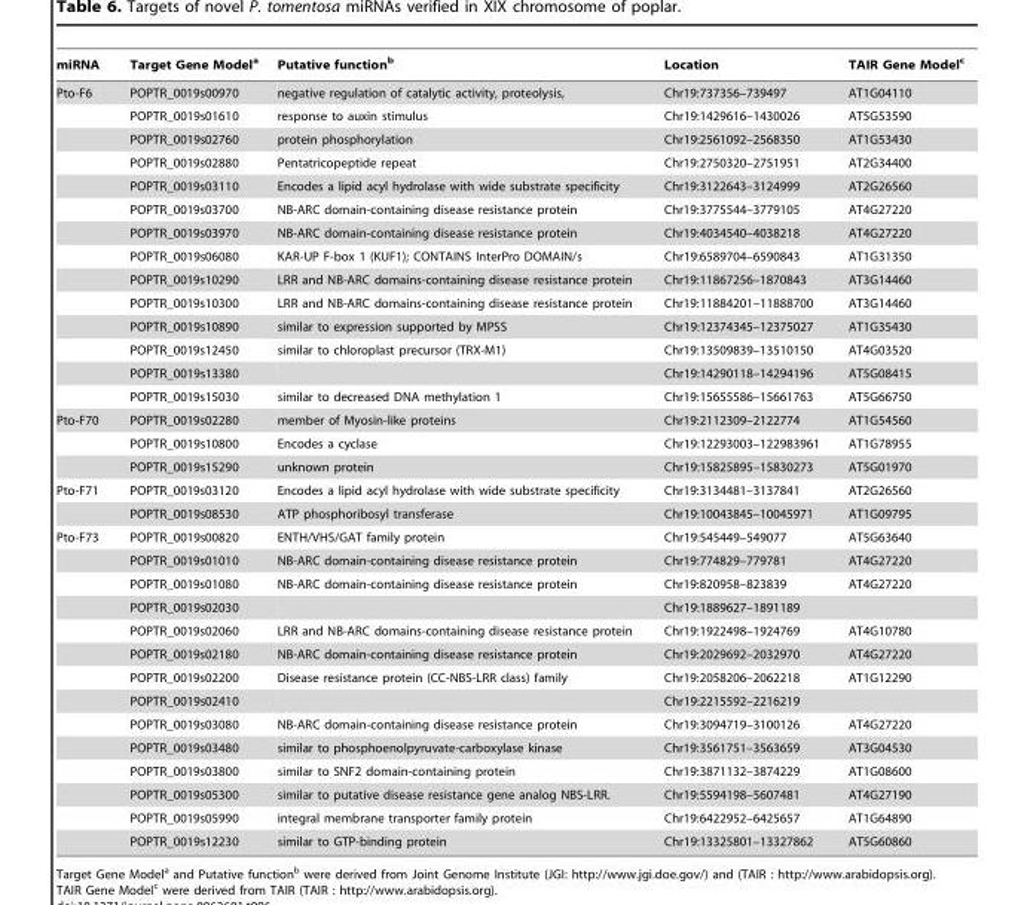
<table><thead><tr><td>miRNA</td><td>Target Gene Model<sup>a</sup></td><td>Putative function<sup>b</sup></td><td>Location</td><td>TAIR Gene Model<sup>c</sup></td></tr></thead><tbody><tr><td rowspan="14">Pto-F6</td><td>POPTR_0019s00970</td><td>negative regulation of catalytic activity, proteolysis,</td><td>Chr19:737356–739497</td><td>AT1G04110</td></tr><tr><td>POPTR_0019s01610</td><td>response to auxin stimulus</td><td>Chr19:1429616–1430026</td><td>AT5G53590</td></tr><tr><td>POPTR_0019s02760</td><td>protein phosphorylation</td><td>Chr19:2561092–2568350</td><td>AT1G53430</td></tr><tr><td>POPTR_0019s02880</td><td>Pentatricopeptide repeat</td><td>Chr19:2750320–2751951</td><td>AT2G34400</td></tr><tr><td>POPTR_0019s03110</td><td>Encodes a lipid acyl hydrolase with wide substrate specificity</td><td>Chr19:3122643–3124999</td><td>AT2G26560</td></tr><tr><td>POPTR_0019s03700</td><td>NB-ARC domain-containing disease resistance protein</td><td>Chr19:3775544–3779105</td><td>AT4G27220</td></tr><tr><td>POPTR_0019s03970</td><td>NB-ARC domain-containing disease resistance protein</td><td>Chr19:4034540–4038218</td><td>AT4G27220</td></tr><tr><td>POPTR_0019s06080</td><td>KAR-UP F-box 1 (KUF1); CONTAINS InterPro DOMAIN/s</td><td>Chr19:6589704–6590843</td><td>AT1G31350</td></tr><tr><td>POPTR_0019s10290</td><td>LRR and NB-ARC domains-containing disease resistance protein</td><td>Chr19:11867256–1870843</td><td>AT3G14460</td></tr><tr><td>POPTR_0019s10300</td><td>LRR and NB-ARC domains-containing disease resistance protein</td><td>Chr19:11884201–11888700</td><td>AT3G14460</td></tr><tr><td>POPTR_0019s10890</td><td>similar to expression supported by MPSS</td><td>Chr19:12374345–12375027</td><td>AT1G35430</td></tr><tr><td>POPTR_0019s12450</td><td>similar to chloroplast precursor (TRX-M1)</td><td>Chr19:13509839–13510150</td><td>AT4G03520</td></tr><tr><td>POPTR_0019s13380</td><td></td><td>Chr19:14290118–14294196</td><td>AT5G08415</td></tr><tr><td>POPTR_0019s15030</td><td>similar to decreased DNA methylation 1</td><td>Chr19:15655586–15661763</td><td>AT5G66750</td></tr><tr><td rowspan="3">Pto-F70</td><td>POPTR_0019s02280</td><td>member of Myosin-like proteins</td><td>Chr19:2112309–2122774</td><td>AT1G54560</td></tr><tr><td>POPTR_0019s10800</td><td>Encodes a cyclase</td><td>Chr19:12293003–122983961</td><td>AT1G78955</td></tr><tr><td>POPTR_0019s15290</td><td>unknown protein</td><td>Chr19:15825895–15830273</td><td>AT5G01970</td></tr><tr><td rowspan="2">Pto-F71</td><td>POPTR_0019s03120</td><td>Encodes a lipid acyl hydrolase with wide substrate specificity</td><td>Chr19:3134481–3137841</td><td>AT2G26560</td></tr><tr><td>POPTR_0019s08530</td><td>ATP phosphoribosyl transferase</td><td>Chr19:10043845–10045971</td><td>AT1G09795</td></tr><tr><td rowspan="14">Pto-F73</td><td>POPTR_0019s00820</td><td>ENTH/VHS/GAT family protein</td><td>Chr19:545449–549077</td><td>AT5G63640</td></tr><tr><td>POPTR_0019s01010</td><td>NB-ARC domain-containing disease resistance protein</td><td>Chr19:774829–779781</td><td>AT4G27220</td></tr><tr><td>POPTR_0019s01080</td><td>NB-ARC domain-containing disease resistance protein</td><td>Chr19:820958–823839</td><td>AT4G27220</td></tr><tr><td>POPTR_0019s02030</td><td></td><td>Chr19:1889627–1891189</td><td></td></tr><tr><td>POPTR_0019s02060</td><td>LRR and NB-ARC domains-containing disease resistance protein</td><td>Chr19:1922498–1924769</td><td>AT4G10780</td></tr><tr><td>POPTR_0019s02180</td><td>NB-ARC domain-containing disease resistance protein</td><td>Chr19:2029692–2032970</td><td>AT4G27220</td></tr><tr><td>POPTR_0019s02200</td><td>Disease resistance protein (CC-NBS-LRR class) family</td><td>Chr19:2058206–2062218</td><td>AT1G12290</td></tr><tr><td>POPTR_0019s02410</td><td></td><td>Chr19:2215592–2216219</td><td></td></tr><tr><td>POPTR_0019s03080</td><td>NB-ARC domain-containing disease resistance protein</td><td>Chr19:3094719–3100126</td><td>AT4G27220</td></tr><tr><td>POPTR_0019s03480</td><td>similar to phosphoenolpyruvate-carboxylase kinase</td><td>Chr19:3561751–3563659</td><td>AT3G04530</td></tr><tr><td>POPTR_0019s03800</td><td>similar to SNF2 domain-containing protein</td><td>Chr19:3871132–3874229</td><td>AT1G08600</td></tr><tr><td>POPTR_0019s05300</td><td>similar to putative disease resistance gene analog NBS-LRR.</td><td>Chr19:5594198–5607481</td><td>AT4G27190</td></tr><tr><td>POPTR_0019s05990</td><td>integral membrane transporter family protein</td><td>Chr19:6422952–6425657</td><td>AT1G64890</td></tr><tr><td>POPTR_0019s12230</td><td>similar to GTP-binding protein</td><td>Chr19:13325801–13327862</td><td>AT5G60860</td></tr></tbody></table>